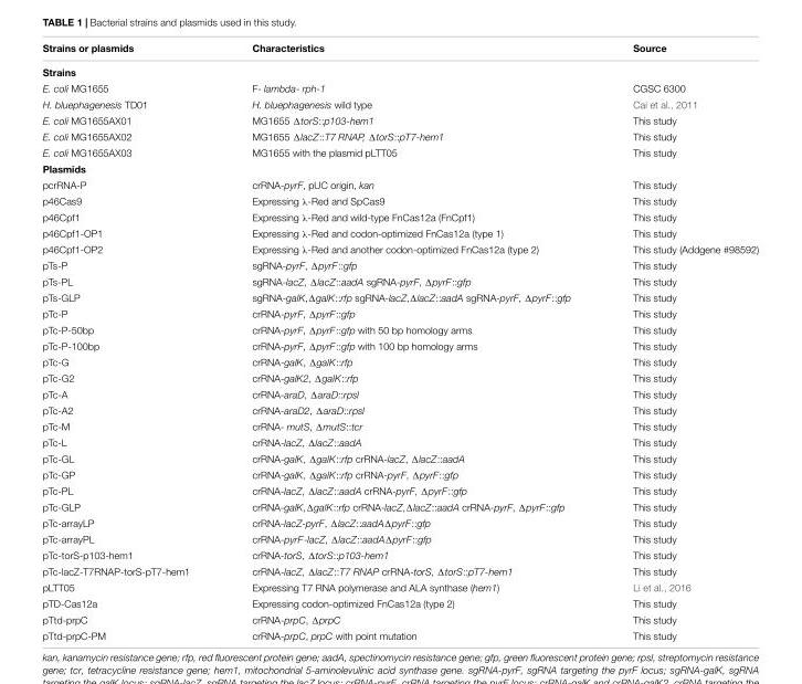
<table><thead><tr><td>Strains or plasmids</td><td>Characteristics</td><td>Source</td></tr></thead><tbody><tr><td colspan="3">Strains</td></tr><tr><td>E. coli MG1655</td><td>F- lambda- rph-1</td><td>CGSC 6300</td></tr><tr><td>H. bluephagenesis TD01</td><td>H. bluephagenesis wild type</td><td>Cai et al., 2011</td></tr><tr><td>E. coli MG1655AX01</td><td>MG1655 ΔtorS::p103-hem1</td><td>This study</td></tr><tr><td>E. coli MG1655AX02</td><td>MG1655 ΔlacZ::T7 RNAP, ΔtorS::pT7-hem1</td><td>This study</td></tr><tr><td>E. coli MG1655AX03</td><td>MG1655 with the plasmid pLTT05</td><td>This study</td></tr><tr><td colspan="3">Plasmids</td></tr><tr><td>pcrRNA-P</td><td>crRNA-pyrF, pUC origin, kan</td><td>This study</td></tr><tr><td>p46Cas9</td><td>Expressing λ-Red and SpCas9</td><td>This study</td></tr><tr><td>p46Cpf1</td><td>Expressing λ-Red and wild-type FnCas12a (FnCpf1)</td><td>This study</td></tr><tr><td>p46Cpf1-OP1</td><td>Expressing λ-Red and codon-optimized FnCas12a (type 1)</td><td>This study</td></tr><tr><td>p46Cpf1-OP2</td><td>Expressing λ-Red and another codon-optimized FnCas12a (type 2)</td><td>This study (Addgene #98592)</td></tr><tr><td>pTs-P</td><td>sgRNA-pyrF, ΔpyrF::gfp</td><td>This study</td></tr><tr><td>pTs-PL</td><td>sgRNA-lacZ, ΔlacZ::aadA sgRNA-pyrF, ΔpyrF::gfp</td><td>This study</td></tr><tr><td>pTs-GLP</td><td>sgRNA-galK,ΔgalK::rfp sgRNA-lacZ,ΔlacZ::aadA sgRNA-pyrF, ΔpyrF::gfp</td><td>This study</td></tr><tr><td>pTc-P</td><td>crRNA-pyrF, ΔpyrF::gfp</td><td>This study</td></tr><tr><td>pTc-P-50bp</td><td>crRNA-pyrF, ΔpyrF::gfp with 50 bp homology arms</td><td>This study</td></tr><tr><td>pTc-P-100bp</td><td>crRNA-pyrF, ΔpyrF::gfp with 100 bp homology arms</td><td>This study</td></tr><tr><td>pTc-G</td><td>crRNA-galK, ΔgalK::rfp</td><td>This study</td></tr><tr><td>pTc-G2</td><td>crRNA-galK2, ΔgalK::rfp</td><td>This study</td></tr><tr><td>pTc-A</td><td>crRNA-araD, ΔaraD::rpsl</td><td>This study</td></tr><tr><td>pTc-A2</td><td>crRNA-araD2, ΔaraD::rpsl</td><td>This study</td></tr><tr><td>pTc-M</td><td>crRNA- mutS, ΔmutS::tcr</td><td>This study</td></tr><tr><td>pTc-L</td><td>crRNA-lacZ, ΔlacZ::aadA</td><td>This study</td></tr><tr><td>pTc-GL</td><td>crRNA-galK, ΔgalK::rfp crRNA-lacZ, ΔlacZ::aadA</td><td>This study</td></tr><tr><td>pTc-GP</td><td>crRNA-galK, ΔgalK::rfp crRNA-pyrF, ΔpyrF::gfp</td><td>This study</td></tr><tr><td>pTc-PL</td><td>crRNA-lacZ, ΔlacZ::aadA crRNA-pyrF, ΔpyrF::gfp</td><td>This study</td></tr><tr><td>pTc-GLP</td><td>crRNA-galK,ΔgalK::rfp crRNA-lacZ,ΔlacZ::aadA crRNA-pyrF, ΔpyrF::gfp</td><td>This study</td></tr><tr><td>pTc-arrayLP</td><td>crRNA-lacZ-pyrF, ΔlacZ::aadAΔpyrF::gfp</td><td>This study</td></tr><tr><td>pTc-arrayPL</td><td>crRNA-pyrF-lacZ, ΔlacZ::aadAΔpyrF::gfp</td><td>This study</td></tr><tr><td>pTc-torS-p103-hem1</td><td>crRNA-torS, ΔtorS::p103-hem1</td><td>This study</td></tr><tr><td>pTc-lacZ-T7RNAP-torS-pT7-hem1</td><td>crRNA-lacZ, ΔlacZ::T7 RNAP crRNA-torS, ΔtorS::pT7-hem1</td><td>This study</td></tr><tr><td>pLTT05</td><td>Expressing T7 RNA polymerase and ALA synthase (hem1)</td><td>Li et al., 2016</td></tr><tr><td>pTD-Cas12a</td><td>Expressing codon-optimized FnCas12a (type 2)</td><td>This study</td></tr><tr><td>pTtd-prpC</td><td>crRNA-prpC, ΔprpC</td><td>This study</td></tr><tr><td>pTtd-prpC-PM</td><td>crRNA-prpC, prpC with point mutation</td><td>This study</td></tr></tbody></table>